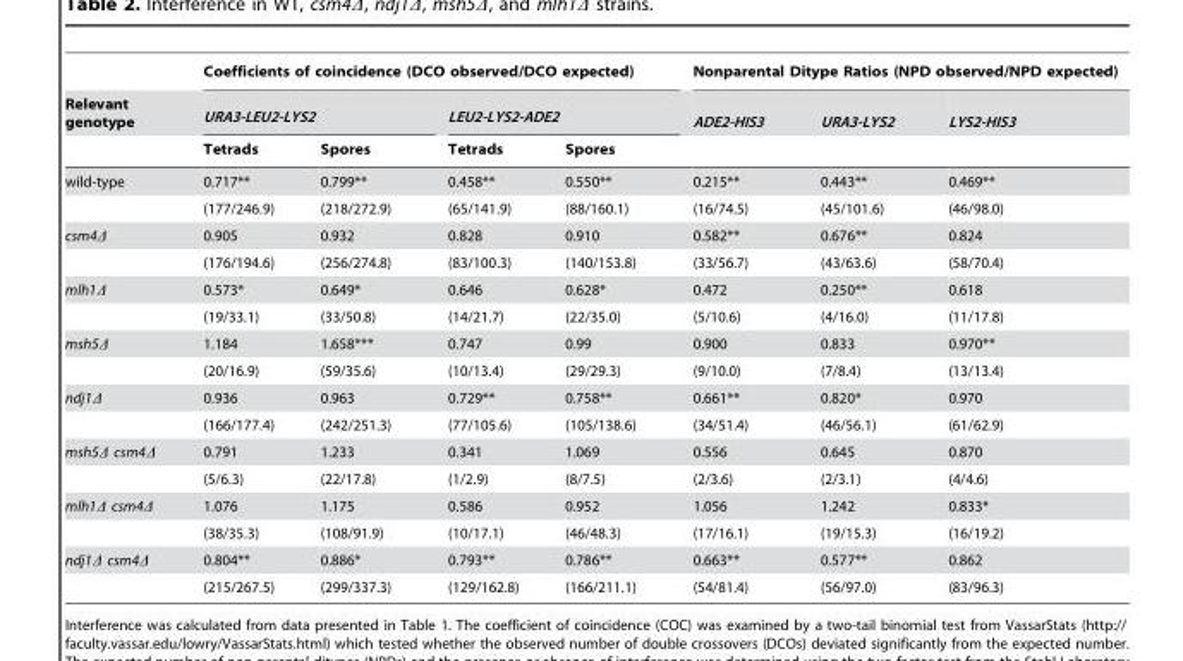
<table><thead><tr><td colspan="5">Coefficients of coincidence (DCO observed/DCO expected)</td><td colspan="3">Nonparental Ditype Ratios (NPD observed/NPD expected)</td></tr><tr><td rowspan="2">Relevant genotype</td><td colspan="2">URA3-LEU2-LYS2</td><td colspan="2">LEU2-LYS2-ADE2</td><td rowspan="2">ADE2-HIS3</td><td rowspan="2">URA3-LYS2</td><td rowspan="2">LYS2-HIS3</td></tr><tr><td>Tetrads</td><td>Spores</td><td>Tetrads</td><td>Spores</td></tr></thead><tbody><tr><td rowspan="2">wild-type</td><td>0.717**</td><td>0.799**</td><td>0.458**</td><td>0.550**</td><td>0.215**</td><td>0.443**</td><td>0.469**</td></tr><tr><td>(177/246.9)</td><td>(218/272.9)</td><td>(65/141.9)</td><td>(88/160.1)</td><td>(16/74.5)</td><td>(45/101.6)</td><td>(46/98.0)</td></tr><tr><td rowspan="2">csm4Δ</td><td>0.905</td><td>0.932</td><td>0.828</td><td>0.910</td><td>0.582**</td><td>0.676**</td><td>0.824</td></tr><tr><td>(176/194.6)</td><td>(256/274.8)</td><td>(83/100.3)</td><td>(140/153.8)</td><td>(33/56.7)</td><td>(43/63.6)</td><td>(58/70.4)</td></tr><tr><td rowspan="2">mlh1Δ</td><td>0.573*</td><td>0.649*</td><td>0.646</td><td>0.628*</td><td>0.472</td><td>0.250**</td><td>0.618</td></tr><tr><td>(19/33.1)</td><td>(33/50.8)</td><td>(14/21.7)</td><td>(22/35.0)</td><td>(5/10.6)</td><td>(4/16.0)</td><td>(11/17.8)</td></tr><tr><td rowspan="2">msh5Δ</td><td>1.184</td><td>1.658***</td><td>0.747</td><td>0.99</td><td>0.900</td><td>0.833</td><td>0.970**</td></tr><tr><td>(20/16.9)</td><td>(59/35.6)</td><td>(10/13.4)</td><td>(29/29.3)</td><td>(9/10.0)</td><td>(7/8.4)</td><td>(13/13.4)</td></tr><tr><td rowspan="2">ndj1Δ</td><td>0.936</td><td>0.963</td><td>0.729**</td><td>0.758**</td><td>0.661**</td><td>0.820*</td><td>0.970</td></tr><tr><td>(166/177.4)</td><td>(242/251.3)</td><td>(77/105.6)</td><td>(105/138.6)</td><td>(34/51.4)</td><td>(46/56.1)</td><td>(61/62.9)</td></tr><tr><td rowspan="2">msh5Δ csm4Δ</td><td>0.791</td><td>1.233</td><td>0.341</td><td>1.069</td><td>0.556</td><td>0.645</td><td>0.870</td></tr><tr><td>(5/6.3)</td><td>(22/17.8)</td><td>(1/2.9)</td><td>(8/7.5)</td><td>(2/3.6)</td><td>(2/3.1)</td><td>(4/4.6)</td></tr><tr><td rowspan="2">mlh1Δ csm4Δ</td><td>1.076</td><td>1.175</td><td>0.586</td><td>0.952</td><td>1.056</td><td>1.242</td><td>0.833*</td></tr><tr><td>(38/35.3)</td><td>(108/91.9)</td><td>(10/17.1)</td><td>(46/48.3)</td><td>(17/16.1)</td><td>(19/15.3)</td><td>(16/19.2)</td></tr><tr><td rowspan="2">ndj1Δ csm4Δ</td><td>0.804**</td><td>0.886*</td><td>0.793**</td><td>0.786**</td><td>0.663**</td><td>0.577**</td><td>0.862</td></tr><tr><td>(215/267.5)</td><td>(299/337.3)</td><td>(129/162.8)</td><td>(166/211.1)</td><td>(54/81.4)</td><td>(56/97.0)</td><td>(83/96.3)</td></tr></tbody></table>